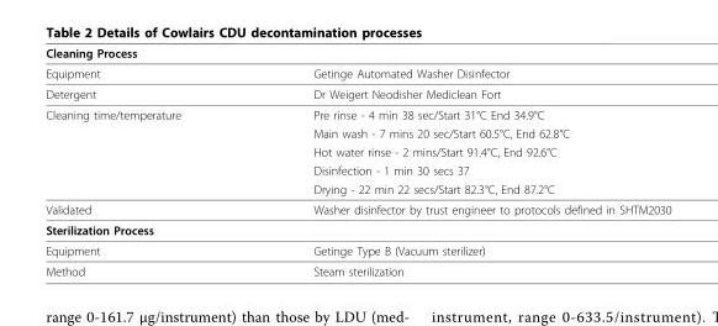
<table><thead><tr><td>Cleaning Process</td><td></td></tr></thead><tbody><tr><td>Equipment</td><td>Getinge Automated Washer Disinfector</td></tr><tr><td>Detergent</td><td>Dr Weigert Neodisher Mediclean Fort</td></tr><tr><td rowspan="5">Cleaning time/temperature</td><td>Pre rinse - 4 min 38 sec/Start 31°C End 34.9°C</td></tr><tr><td>Main wash - 7 mins 20 sec/Start 60.5°C, End 62.8°C</td></tr><tr><td>Hot water rinse - 2 mins/Start 91.4°C, End 92.6°C</td></tr><tr><td>Disinfection - 1 min 30 secs 37</td></tr><tr><td>Drying - 22 min 22 secs/Start 82.3°C, End 87.2°C</td></tr><tr><td>Validated</td><td>Washer disinfector by trust engineer to protocols defined in SHTM2030</td></tr><tr><td colspan="2">Sterilization Process</td></tr><tr><td>Equipment</td><td>Getinge Type B (Vacuum sterilizer)</td></tr><tr><td>Method</td><td>Steam sterilization</td></tr></tbody></table>